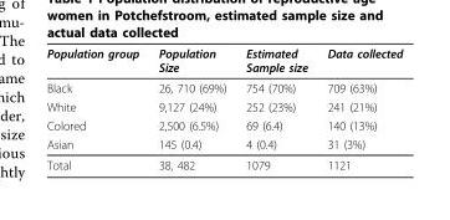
<table><thead><tr><td>Population group</td><td>Population Size</td><td>Estimated Sample size</td><td>Data collected</td></tr></thead><tbody><tr><td>Black</td><td>26, 710 (69%)</td><td>754 (70%)</td><td>709 (63%)</td></tr><tr><td>White</td><td>9,127 (24%)</td><td>252 (23%)</td><td>241 (21%)</td></tr><tr><td>Colored</td><td>2,500 (6.5%)</td><td>69 (6.4)</td><td>140 (13%)</td></tr><tr><td>Asian</td><td>145 (0.4)</td><td>4 (0.4)</td><td>31 (3%)</td></tr><tr><td>Total</td><td>38, 482</td><td>1079</td><td>1121</td></tr></tbody></table>